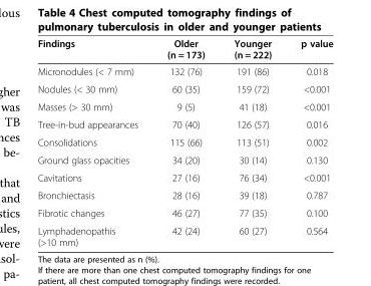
<table><thead><tr><td>Findings</td><td>Older (n = 173)</td><td>Younger (n = 222)</td><td>p value</td></tr></thead><tbody><tr><td>Micronodules (&lt; 7 mm)</td><td>132 (76)</td><td>191 (86)</td><td>0.018</td></tr><tr><td>Nodules (&lt; 30 mm)</td><td>60 (35)</td><td>159 (72)</td><td>&lt;0.001</td></tr><tr><td>Masses (&gt; 30 mm)</td><td>9 (5)</td><td>41 (18)</td><td>&lt;0.001</td></tr><tr><td>Tree-in-bud appearances</td><td>70 (40)</td><td>126 (57)</td><td>0.016</td></tr><tr><td>Consolidations</td><td>115 (66)</td><td>113 (51)</td><td>0.002</td></tr><tr><td>Ground glass opacities</td><td>34 (20)</td><td>30 (14)</td><td>0.130</td></tr><tr><td>Cavitations</td><td>27 (16)</td><td>76 (34)</td><td>&lt;0.001</td></tr><tr><td>Bronchiectasis</td><td>28 (16)</td><td>39 (18)</td><td>0.787</td></tr><tr><td>Fibrotic changes</td><td>46 (27)</td><td>77 (35)</td><td>0.100</td></tr><tr><td>Lymphadenopathis (&gt;10 mm)</td><td>42 (24)</td><td>60 (27)</td><td>0.564</td></tr></tbody></table>